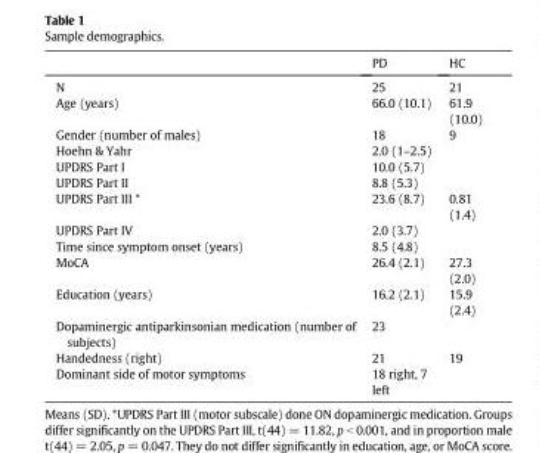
<table><thead><tr><td></td><td>PD</td><td>HC</td></tr></thead><tbody><tr><td>N</td><td>25</td><td>21</td></tr><tr><td>Age (years)</td><td>66.0 (10.1)</td><td>61.9 (10.0)</td></tr><tr><td>Gender (number of males)</td><td>18</td><td>9</td></tr><tr><td>Hoehn &amp; Yahr</td><td>2.0 (1–2.5)</td><td></td></tr><tr><td>UPDRS Part I</td><td>10.0 (5.7)</td><td></td></tr><tr><td>UPDRS Part II</td><td>8.8 (5.3)</td><td></td></tr><tr><td>UPDRS Part III *</td><td>23.6 (8.7)</td><td>0.81 (1.4)</td></tr><tr><td>UPDRS Part IV</td><td>2.0 (3.7)</td><td></td></tr><tr><td>Time since symptom onset (years)</td><td>8.5 (4.8)</td><td></td></tr><tr><td>MoCA</td><td>26.4 (2.1)</td><td>27.3 (2.0)</td></tr><tr><td>Education (years)</td><td>16.2 (2.1)</td><td>15.9 (2.4)</td></tr><tr><td>Dopaminergic antiparkinsonian medication (number of subjects)</td><td>23</td><td></td></tr><tr><td>Handedness (right)</td><td>21</td><td>19</td></tr><tr><td>Dominant side of motor symptoms</td><td>18 right, 7 left</td><td></td></tr></tbody></table>